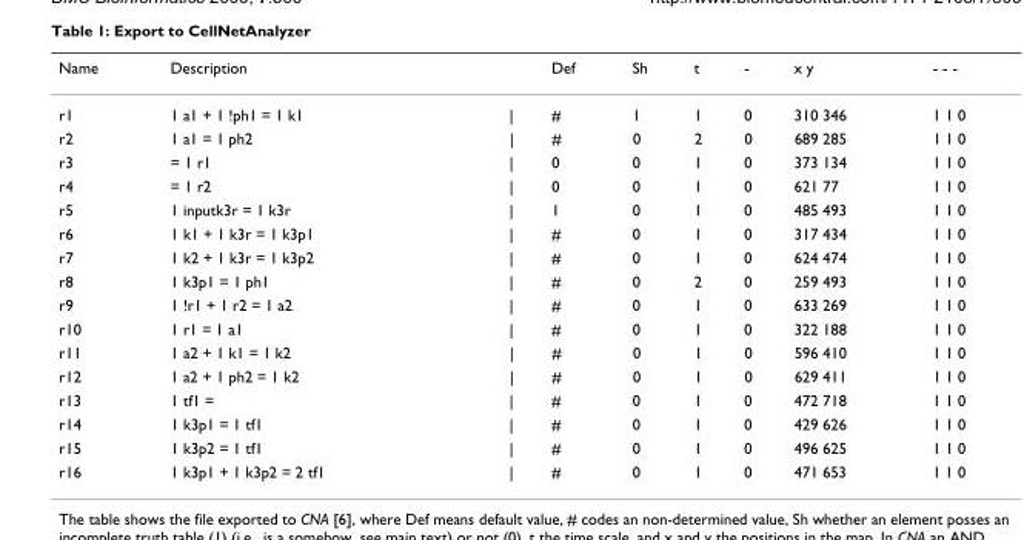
<table><thead><tr><td>Name</td><td>Description</td><td></td><td>Def</td><td>Sh</td><td>t</td><td>-</td><td>x y</td><td>- - -</td></tr></thead><tbody><tr><td>r1</td><td>1 a1 + 1 !ph1 = 1 k1</td><td>|</td><td>#</td><td>1</td><td>1</td><td>0</td><td>310 346</td><td>1 1 0</td></tr><tr><td>r2</td><td>1 a1 = 1 ph2</td><td>|</td><td>#</td><td>0</td><td>2</td><td>0</td><td>689 285</td><td>1 1 0</td></tr><tr><td>r3</td><td>= 1 r1</td><td>|</td><td>0</td><td>0</td><td>1</td><td>0</td><td>373 134</td><td>1 1 0</td></tr><tr><td>r4</td><td>= 1 r2</td><td>|</td><td>0</td><td>0</td><td>1</td><td>0</td><td>621 77</td><td>1 1 0</td></tr><tr><td>r5</td><td>1 inputk3r = 1 k3r</td><td>|</td><td>1</td><td>0</td><td>1</td><td>0</td><td>485 493</td><td>1 1 0</td></tr><tr><td>r6</td><td>1 k1 + 1 k3r = 1 k3p1</td><td>|</td><td>#</td><td>0</td><td>1</td><td>0</td><td>317 434</td><td>1 1 0</td></tr><tr><td>r7</td><td>1 k2 + 1 k3r = 1 k3p2</td><td>|</td><td>#</td><td>0</td><td>1</td><td>0</td><td>624 474</td><td>1 1 0</td></tr><tr><td>r8</td><td>1 k3p1 = 1 ph1</td><td>|</td><td>#</td><td>0</td><td>2</td><td>0</td><td>259 493</td><td>1 1 0</td></tr><tr><td>r9</td><td>1 !r1 + 1 r2 = 1 a2</td><td>|</td><td>#</td><td>0</td><td>1</td><td>0</td><td>633 269</td><td>1 1 0</td></tr><tr><td>r10</td><td>1 r1 = 1 a1</td><td>|</td><td>#</td><td>0</td><td>1</td><td>0</td><td>322 188</td><td>1 1 0</td></tr><tr><td>r11</td><td>1 a2 + 1 k1 = 1 k2</td><td>|</td><td>#</td><td>0</td><td>1</td><td>0</td><td>596 410</td><td>1 1 0</td></tr><tr><td>r12</td><td>1 a2 + 1 ph2 = 1 k2</td><td>|</td><td>#</td><td>0</td><td>1</td><td>0</td><td>629 411</td><td>1 1 0</td></tr><tr><td>r13</td><td>1 tf1 =</td><td>|</td><td>#</td><td>0</td><td>1</td><td>0</td><td>472 718</td><td>1 1 0</td></tr><tr><td>r14</td><td>1 k3p1 = 1 tf1</td><td>|</td><td>#</td><td>0</td><td>1</td><td>0</td><td>429 626</td><td>1 1 0</td></tr><tr><td>r15</td><td>1 k3p2 = 1 tf1</td><td>|</td><td>#</td><td>0</td><td>1</td><td>0</td><td>496 625</td><td>1 1 0</td></tr><tr><td>r16</td><td>1 k3p1 + 1 k3p2 = 2 tf1</td><td>|</td><td>#</td><td>0</td><td>1</td><td>0</td><td>471 653</td><td>1 1 0</td></tr></tbody></table>